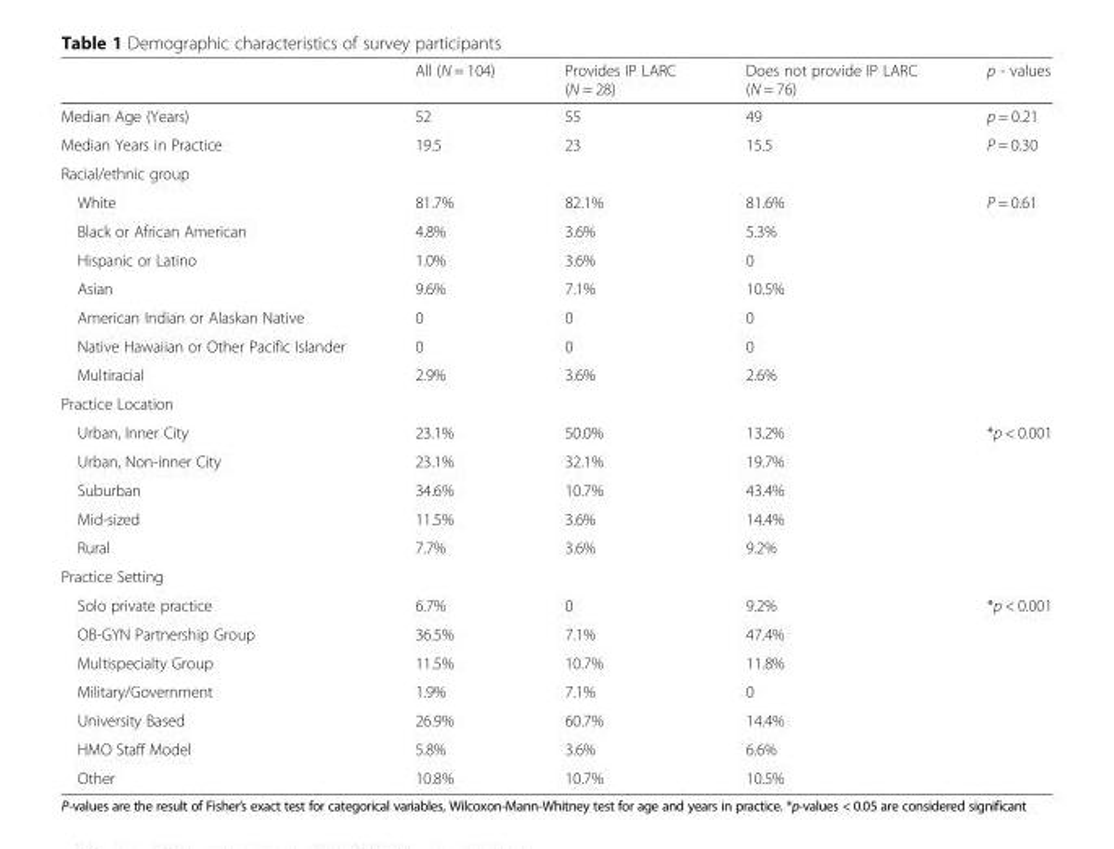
<table><thead><tr><td></td><td>All (N = 104)</td><td>Provides IP LARC (N = 28)</td><td>Does not provide IP LARC (N = 76)</td><td>p - values</td></tr></thead><tbody><tr><td>Median Age (Years)</td><td>52</td><td>55</td><td>49</td><td>p = 0.21</td></tr><tr><td>Median Years in Practice</td><td>19.5</td><td>23</td><td>15.5</td><td>P = 0.30</td></tr><tr><td colspan="5">Racial/ethnic group</td></tr><tr><td>White</td><td>81.7%</td><td>82.1%</td><td>81.6%</td><td rowspan="7">P = 0.61</td></tr><tr><td>Black or African American</td><td>4.8%</td><td>3.6%</td><td>5.3%</td></tr><tr><td>Hispanic or Latino</td><td>1.0%</td><td>3.6%</td><td>0</td></tr><tr><td>Asian</td><td>9.6%</td><td>7.1%</td><td>10.5%</td></tr><tr><td>American Indian or Alaskan Native</td><td>0</td><td>0</td><td>0</td></tr><tr><td>Native Hawaiian or Other Pacific Islander</td><td>0</td><td>0</td><td>0</td></tr><tr><td>Multiracial</td><td>2.9%</td><td>3.6%</td><td>2.6%</td></tr><tr><td colspan="5">Practice Location</td></tr><tr><td>Urban, Inner City</td><td>23.1%</td><td>50.0%</td><td>13.2%</td><td rowspan="5">*p &lt; 0.001</td></tr><tr><td>Urban, Non-inner City</td><td>23.1%</td><td>32.1%</td><td>19.7%</td></tr><tr><td>Suburban</td><td>34.6%</td><td>10.7%</td><td>43.4%</td></tr><tr><td>Mid-sized</td><td>11.5%</td><td>3.6%</td><td>14.4%</td></tr><tr><td>Rural</td><td>7.7%</td><td>3.6%</td><td>9.2%</td></tr><tr><td colspan="5">Practice Setting</td></tr><tr><td>Solo private practice</td><td>6.7%</td><td>0</td><td>9.2%</td><td rowspan="7">*p &lt; 0.001</td></tr><tr><td>OB-GYN Partnership Group</td><td>36.5%</td><td>7.1%</td><td>47.4%</td></tr><tr><td>Multispecialty Group</td><td>11.5%</td><td>10.7%</td><td>11.8%</td></tr><tr><td>Military/Government</td><td>1.9%</td><td>7.1%</td><td>0</td></tr><tr><td>University Based</td><td>26.9%</td><td>60.7%</td><td>14.4%</td></tr><tr><td>HMO Staff Model</td><td>5.8%</td><td>3.6%</td><td>6.6%</td></tr><tr><td>Other</td><td>10.8%</td><td>10.7%</td><td>10.5%</td></tr></tbody></table>